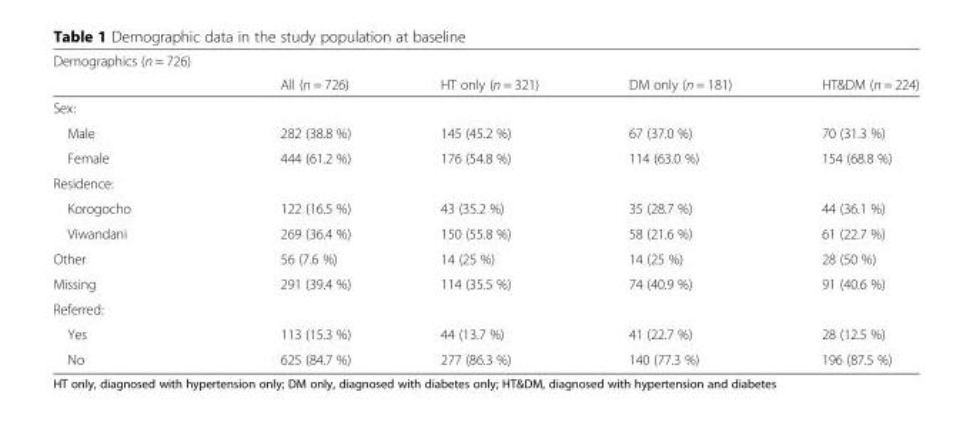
<table><thead><tr><td rowspan="2">Demographics (n = 726)</td><td rowspan="2">All (n = 726)</td><td rowspan="2">HT only (n = 321)</td><td rowspan="2">DM only (n = 181)</td><td rowspan="2">HT&amp;DM (n = 224)</td></tr><tr></tr></thead><tbody><tr><td colspan="5">Sex:</td></tr><tr><td>Male</td><td>282 (38.8 %)</td><td>145 (45.2 %)</td><td>67 (37.0 %)</td><td>70 (31.3 %)</td></tr><tr><td>Female</td><td>444 (61.2 %)</td><td>176 (54.8 %)</td><td>114 (63.0 %)</td><td>154 (68.8 %)</td></tr><tr><td colspan="5">Residence:</td></tr><tr><td>Korogocho</td><td>122 (16.5 %)</td><td>43 (35.2 %)</td><td>35 (28.7 %)</td><td>44 (36.1 %)</td></tr><tr><td>Viwandani</td><td>269 (36.4 %)</td><td>150 (55.8 %)</td><td>58 (21.6 %)</td><td>61 (22.7 %)</td></tr><tr><td>Other</td><td>56 (7.6 %)</td><td>14 (25 %)</td><td>14 (25 %)</td><td>28 (50 %)</td></tr><tr><td>Missing</td><td>291 (39.4 %)</td><td>114 (35.5 %)</td><td>74 (40.9 %)</td><td>91 (40.6 %)</td></tr><tr><td colspan="5">Referred:</td></tr><tr><td>Yes</td><td>113 (15.3 %)</td><td>44 (13.7 %)</td><td>41 (22.7 %)</td><td>28 (12.5 %)</td></tr><tr><td>No</td><td>625 (84.7 %)</td><td>277 (86.3 %)</td><td>140 (77.3 %)</td><td>196 (87.5 %)</td></tr></tbody></table>